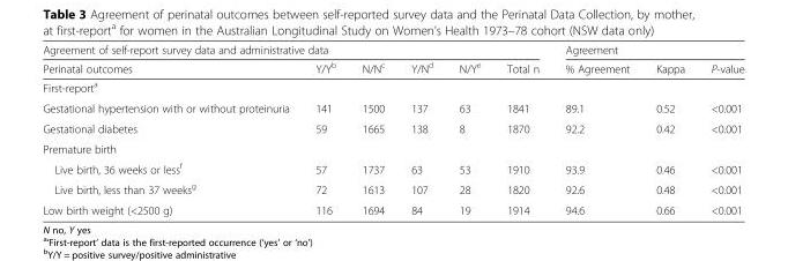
<table><thead><tr><td colspan="6">Agreement of self-report survey data and administrative data</td><td colspan="3">Agreement</td></tr><tr><td>Perinatal outcomes</td><td>Y/Y<sup>b</sup></td><td>N/N<sup>c</sup></td><td>Y/N<sup>d</sup></td><td>N/Y<sup>e</sup></td><td>Total n</td><td>% Agreement</td><td>Kappa</td><td>P-value</td></tr></thead><tbody><tr><td colspan="9">First-report<sup>a</sup></td></tr><tr><td>Gestational hypertension with or without proteinuria</td><td>141</td><td>1500</td><td>137</td><td>63</td><td>1841</td><td>89.1</td><td>0.52</td><td>&lt;0.001</td></tr><tr><td>Gestational diabetes</td><td>59</td><td>1665</td><td>138</td><td>8</td><td>1870</td><td>92.2</td><td>0.42</td><td>&lt;0.001</td></tr><tr><td colspan="9">Premature birth</td></tr><tr><td>Live birth, 36 weeks or less<sup>f</sup></td><td>57</td><td>1737</td><td>63</td><td>53</td><td>1910</td><td>93.9</td><td>0.46</td><td>&lt;0.001</td></tr><tr><td>Live birth, less than 37 weeks<sup>g</sup></td><td>72</td><td>1613</td><td>107</td><td>28</td><td>1820</td><td>92.6</td><td>0.48</td><td>&lt;0.001</td></tr><tr><td>Low birth weight (&lt;2500 g)</td><td>116</td><td>1694</td><td>84</td><td>19</td><td>1914</td><td>94.6</td><td>0.66</td><td>&lt;0.001</td></tr></tbody></table>